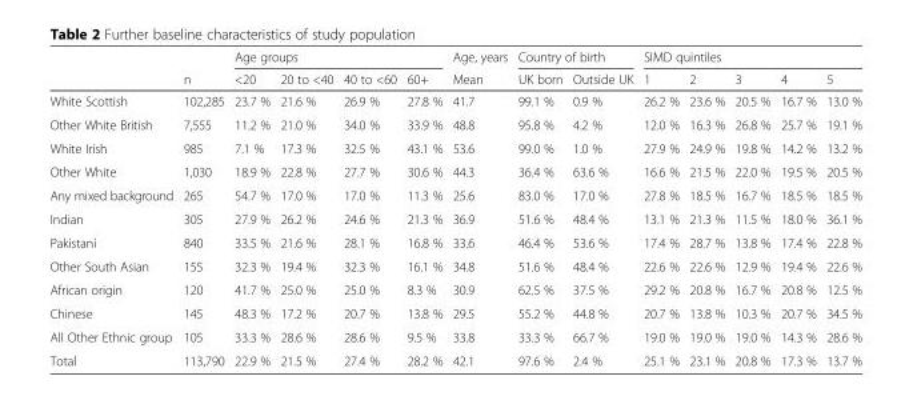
<table><thead><tr><td rowspan="2"></td><td rowspan="2">n</td><td colspan="4">Age groups</td><td rowspan="2">Age, years Mean</td><td colspan="2">Country of birth</td><td colspan="5">SIMD quintiles</td></tr><tr><td>&lt;20</td><td>20 to &lt;40</td><td>40 to &lt;60</td><td>60+</td><td>UK born</td><td>Outside UK</td><td>1</td><td>2</td><td>3</td><td>4</td><td>5</td></tr></thead><tbody><tr><td>White Scottish</td><td>102,285</td><td>23.7 %</td><td>21.6 %</td><td>26.9 %</td><td>27.8 %</td><td>41.7</td><td>99.1 %</td><td>0.9 %</td><td>26.2 %</td><td>23.6 %</td><td>20.5 %</td><td>16.7 %</td><td>13.0 %</td></tr><tr><td>Other White British</td><td>7,555</td><td>11.2 %</td><td>21.0 %</td><td>34.0 %</td><td>33.9 %</td><td>48.8</td><td>95.8 %</td><td>4.2 %</td><td>12.0 %</td><td>16.3 %</td><td>26.8 %</td><td>25.7 %</td><td>19.1 %</td></tr><tr><td>White Irish</td><td>985</td><td>7.1 %</td><td>17.3 %</td><td>32.5 %</td><td>43.1 %</td><td>53.6</td><td>99.0 %</td><td>1.0 %</td><td>27.9 %</td><td>24.9 %</td><td>19.8 %</td><td>14.2 %</td><td>13.2 %</td></tr><tr><td>Other White</td><td>1,030</td><td>18.9 %</td><td>22.8 %</td><td>27.7 %</td><td>30.6 %</td><td>44.3</td><td>36.4 %</td><td>63.6 %</td><td>16.6 %</td><td>21.5 %</td><td>22.0 %</td><td>19.5 %</td><td>20.5 %</td></tr><tr><td>Any mixed background</td><td>265</td><td>54.7 %</td><td>17.0 %</td><td>17.0 %</td><td>11.3 %</td><td>25.6</td><td>83.0 %</td><td>17.0 %</td><td>27.8 %</td><td>18.5 %</td><td>16.7 %</td><td>18.5 %</td><td>18.5 %</td></tr><tr><td>Indian</td><td>305</td><td>27.9 %</td><td>26.2 %</td><td>24.6 %</td><td>21.3 %</td><td>36.9</td><td>51.6 %</td><td>48.4 %</td><td>13.1 %</td><td>21.3 %</td><td>11.5 %</td><td>18.0 %</td><td>36.1 %</td></tr><tr><td>Pakistani</td><td>840</td><td>33.5 %</td><td>21.6 %</td><td>28.1 %</td><td>16.8 %</td><td>33.6</td><td>46.4 %</td><td>53.6 %</td><td>17.4 %</td><td>28.7 %</td><td>13.8 %</td><td>17.4 %</td><td>22.8 %</td></tr><tr><td>Other South Asian</td><td>155</td><td>32.3 %</td><td>19.4 %</td><td>32.3 %</td><td>16.1 %</td><td>34.8</td><td>51.6 %</td><td>48.4 %</td><td>22.6 %</td><td>22.6 %</td><td>12.9 %</td><td>19.4 %</td><td>22.6 %</td></tr><tr><td>African origin</td><td>120</td><td>41.7 %</td><td>25.0 %</td><td>25.0 %</td><td>8.3 %</td><td>30.9</td><td>62.5 %</td><td>37.5 %</td><td>29.2 %</td><td>20.8 %</td><td>16.7 %</td><td>20.8 %</td><td>12.5 %</td></tr><tr><td>Chinese</td><td>145</td><td>48.3 %</td><td>17.2 %</td><td>20.7 %</td><td>13.8 %</td><td>29.5</td><td>55.2 %</td><td>44.8 %</td><td>20.7 %</td><td>13.8 %</td><td>10.3 %</td><td>20.7 %</td><td>34.5 %</td></tr><tr><td>All Other Ethnic group</td><td>105</td><td>33.3 %</td><td>28.6 %</td><td>28.6 %</td><td>9.5 %</td><td>33.8</td><td>33.3 %</td><td>66.7 %</td><td>19.0 %</td><td>19.0 %</td><td>19.0 %</td><td>14.3 %</td><td>28.6 %</td></tr><tr><td>Total</td><td>113,790</td><td>22.9 %</td><td>21.5 %</td><td>27.4 %</td><td>28.2 %</td><td>42.1</td><td>97.6 %</td><td>2.4 %</td><td>25.1 %</td><td>23.1 %</td><td>20.8 %</td><td>17.3 %</td><td>13.7 %</td></tr></tbody></table>